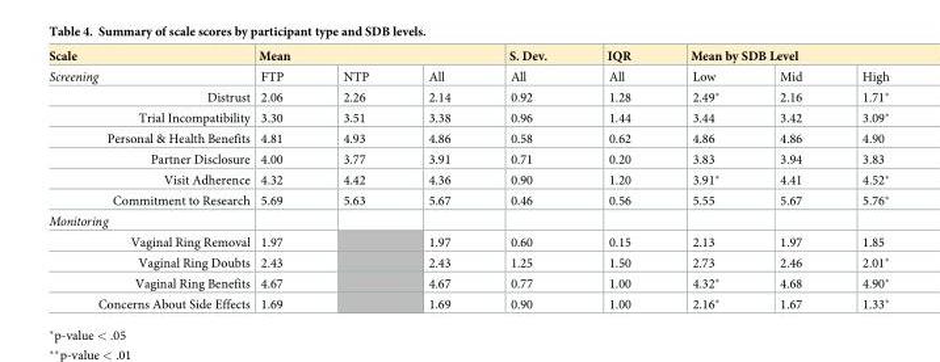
<table><thead><tr><td rowspan="2">Scale Screening</td><td colspan="3">Mean</td><td rowspan="2">S. Dev. All</td><td rowspan="2">IQR All</td><td colspan="3">Mean by SDB Level</td></tr><tr><td>FTP</td><td>NTP</td><td>All</td><td>Low</td><td>Mid</td><td>High</td></tr></thead><tbody><tr><td>Distrust</td><td>2.06</td><td>2.26</td><td>2.14</td><td>0.92</td><td>1.28</td><td>2.49*</td><td>2.16</td><td>1.71*</td></tr><tr><td>Trial Incompatibility</td><td>3.30</td><td>3.51</td><td>3.38</td><td>0.96</td><td>1.44</td><td>3.44</td><td>3.42</td><td>3.09*</td></tr><tr><td>Personal &amp; Health Benefits</td><td>4.81</td><td>4.93</td><td>4.86</td><td>0.58</td><td>0.62</td><td>4.86</td><td>4.86</td><td>4.90</td></tr><tr><td>Partner Disclosure</td><td>4.00</td><td>3.77</td><td>3.91</td><td>0.71</td><td>0.20</td><td>3.83</td><td>3.94</td><td>3.83</td></tr><tr><td>Visit Adherence</td><td>4.32</td><td>4.42</td><td>4.36</td><td>0.90</td><td>1.20</td><td>3.91*</td><td>4.41</td><td>4.52*</td></tr><tr><td>Commitment to Research</td><td>5.69</td><td>5.63</td><td>5.67</td><td>0.46</td><td>0.56</td><td>5.55</td><td>5.67</td><td>5.76*</td></tr><tr><td colspan="9">Monitoring</td></tr><tr><td>Vaginal Ring Removal</td><td>1.97</td><td></td><td>1.97</td><td>0.60</td><td>0.15</td><td>2.13</td><td>1.97</td><td>1.85</td></tr><tr><td>Vaginal Ring Doubts</td><td>2.43</td><td></td><td>2.43</td><td>1.25</td><td>1.50</td><td>2.73</td><td>2.46</td><td>2.01*</td></tr><tr><td>Vaginal Ring Benefits</td><td>4.67</td><td></td><td>4.67</td><td>0.77</td><td>1.00</td><td>4.32*</td><td>4.68</td><td>4.90*</td></tr><tr><td>Concerns About Side Effects</td><td>1.69</td><td></td><td>1.69</td><td>0.90</td><td>1.00</td><td>2.16*</td><td>1.67</td><td>1.33*</td></tr></tbody></table>